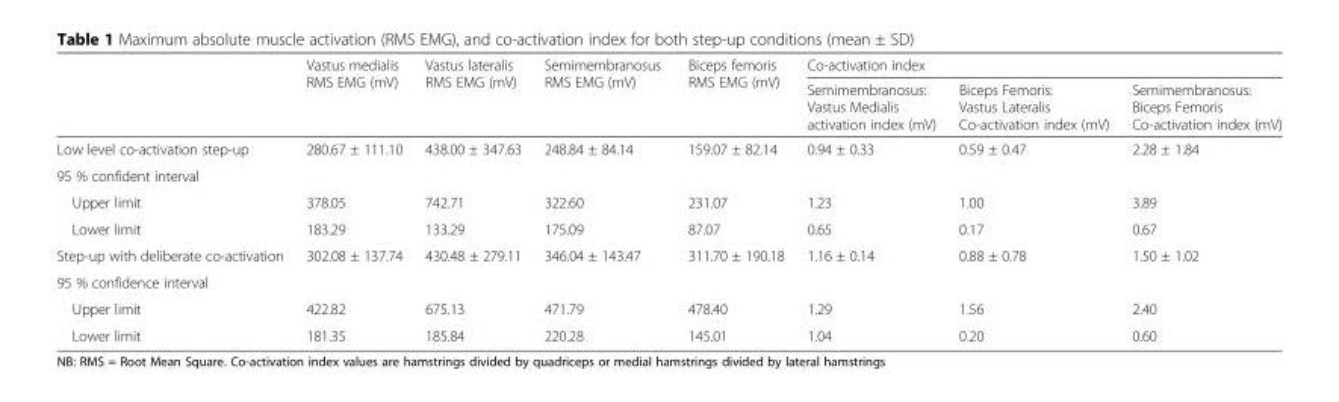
<table><thead><tr><td rowspan="2"></td><td rowspan="2">Vastus medialis RMS EMG (mV)</td><td rowspan="2">Vastus lateralis RMS EMG (mV)</td><td rowspan="2">Semimembranosus RMS EMG (mV)</td><td rowspan="2">Biceps femoris RMS EMG (mV)</td><td colspan="3">Co-activation index</td></tr><tr><td>Semimembranosus: Vastus Medialis activation index (mV)</td><td>Biceps Femoris: Vastus Lateralis Co-activation index (mV)</td><td>Semimembranosus: Biceps Femoris Co-activation index (mV)</td></tr></thead><tbody><tr><td>Low level co-activation step-up</td><td>280.67 ± 111.10</td><td>438.00 ± 347.63</td><td>248.84 ± 84.14</td><td>159.07 ± 82.14</td><td>0.94 ± 0.33</td><td>0.59 ± 0.47</td><td>2.28 ± 1.84</td></tr><tr><td colspan="8">95 % confident interval</td></tr><tr><td>Upper limit</td><td>378.05</td><td>742.71</td><td>322.60</td><td>231.07</td><td>1.23</td><td>1.00</td><td>3.89</td></tr><tr><td>Lower limit</td><td>183.29</td><td>133.29</td><td>175.09</td><td>87.07</td><td>0.65</td><td>0.17</td><td>0.67</td></tr><tr><td>Step-up with deliberate co-activation</td><td>302.08 ± 137.74</td><td>430.48 ± 279.11</td><td>346.04 ± 143.47</td><td>311.70 ± 190.18</td><td>1.16 ± 0.14</td><td>0.88 ± 0.78</td><td>1.50 ± 1.02</td></tr><tr><td colspan="8">95 % confidence interval</td></tr><tr><td>Upper limit</td><td>422.82</td><td>675.13</td><td>471.79</td><td>478.40</td><td>1.29</td><td>1.56</td><td>2.40</td></tr><tr><td>Lower limit</td><td>181.35</td><td>185.84</td><td>220.28</td><td>145.01</td><td>1.04</td><td>0.20</td><td>0.60</td></tr></tbody></table>